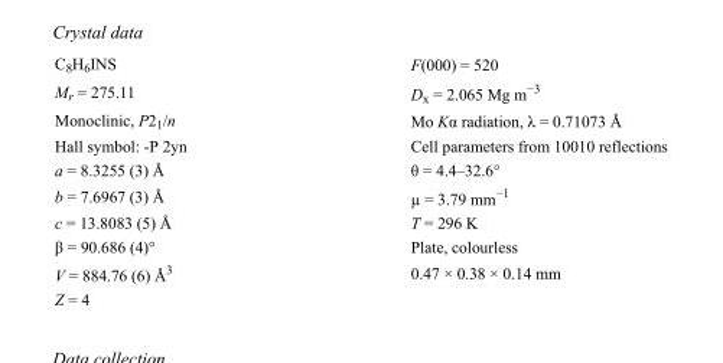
<table><tbody><tr><td>C<sub>8</sub>H<sub>6</sub>INS</td><td>F(000) = 520</td></tr><tr><td>M<sub>r</sub> = 275.11</td><td>D<sub>x</sub> = 2.065 Mg m<sup>−3</sup></td></tr><tr><td>Monoclinic, P2<sub>1</sub>/n</td><td>Mo Kα radiation, λ = 0.71073 Å</td></tr><tr><td>Hall symbol: -P 2yn</td><td>Cell parameters from 10010 reflections</td></tr><tr><td>a = 8.3255 (3) Å</td><td>θ = 4.4–32.6°</td></tr><tr><td>b = 7.6967 (3) Å</td><td>µ = 3.79 mm<sup>−1</sup></td></tr><tr><td>c = 13.8083 (5) Å</td><td>T = 296 K</td></tr><tr><td>β = 90.686 (4)°</td><td>Plate, colourless</td></tr><tr><td>V = 884.76 (6) Å<sup>3</sup></td><td>0.47 × 0.38 × 0.14 mm</td></tr><tr><td>Z = 4</td><td></td></tr></tbody></table>